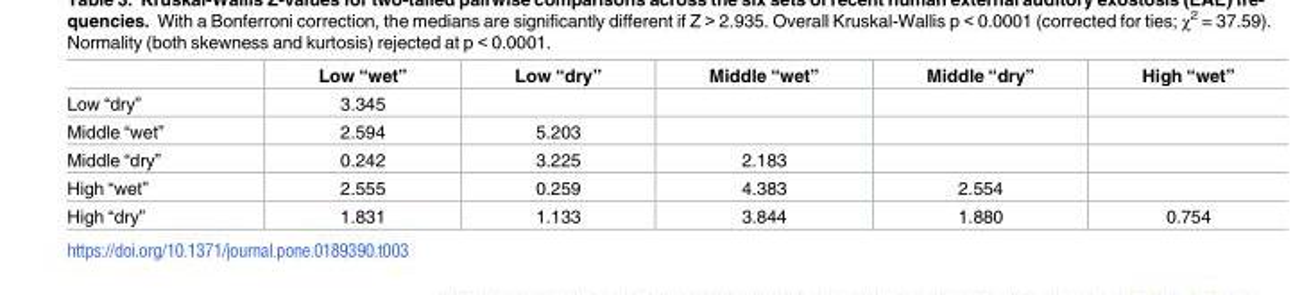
<table><thead><tr><td></td><td>Low “wet”</td><td>Low “dry”</td><td>Middle “wet”</td><td>Middle “dry”</td><td>High “wet”</td></tr></thead><tbody><tr><td>Low “dry”</td><td>3.345</td><td></td><td></td><td></td><td></td></tr><tr><td>Middle “wet”</td><td>2.594</td><td>5.203</td><td></td><td></td><td></td></tr><tr><td>Middle “dry”</td><td>0.242</td><td>3.225</td><td>2.183</td><td></td><td></td></tr><tr><td>High “wet”</td><td>2.555</td><td>0.259</td><td>4.383</td><td>2.554</td><td></td></tr><tr><td>High “dry”</td><td>1.831</td><td>1.133</td><td>3.844</td><td>1.880</td><td>0.754</td></tr></tbody></table>